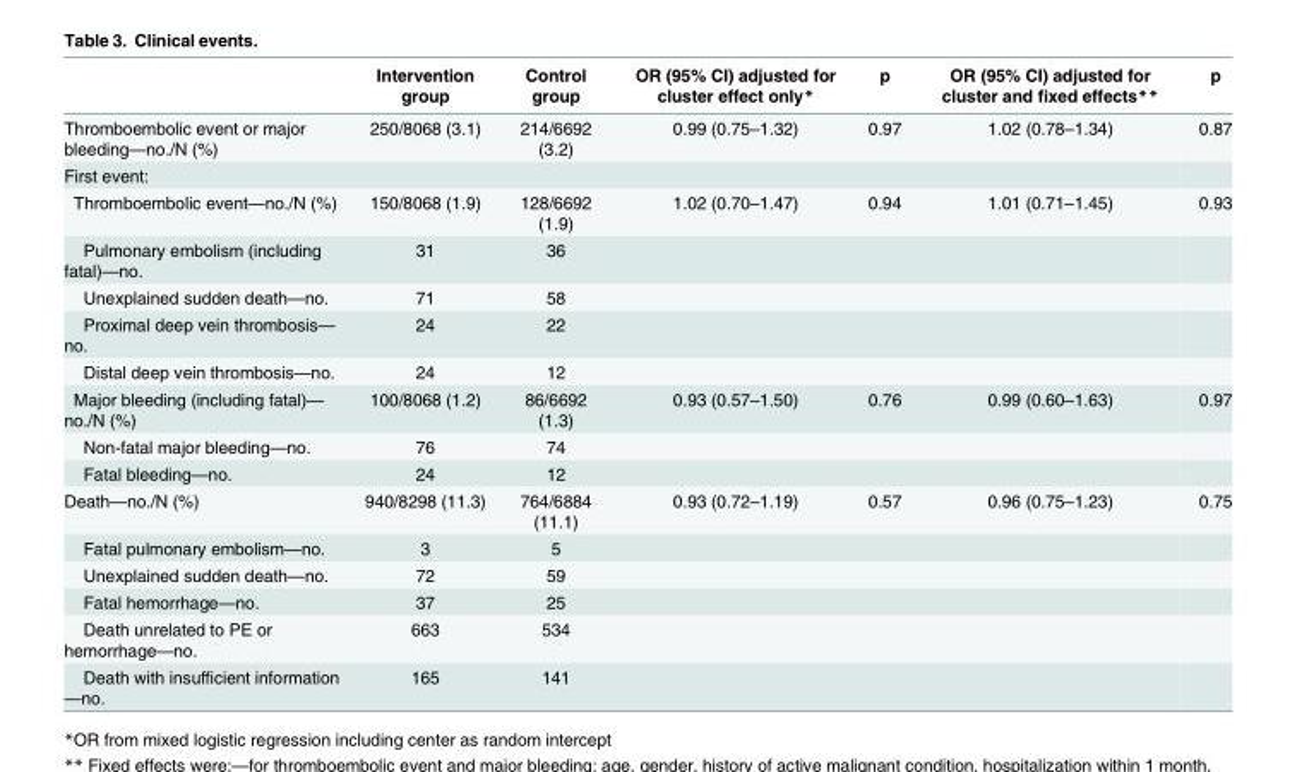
<table><thead><tr><td></td><td>Intervention group</td><td>Control group</td><td>OR (95% CI) adjusted for cluster effect only*</td><td>p</td><td>OR (95% CI) adjusted for cluster and fixed effects**</td><td>p</td></tr></thead><tbody><tr><td>Thromboembolic event or major bleeding—no./N (%)</td><td>250/8068 (3.1)</td><td>214/6692 (3.2)</td><td>0.99 (0.75–1.32)</td><td>0.97</td><td>1.02 (0.78–1.34)</td><td>0.87</td></tr><tr><td colspan="7">First event:</td></tr><tr><td>Thromboembolic event—no./N (%)</td><td>150/8068 (1.9)</td><td>128/6692 (1.9)</td><td>1.02 (0.70–1.47)</td><td>0.94</td><td>1.01 (0.71–1.45)</td><td>0.93</td></tr><tr><td>Pulmonary embolism (including fatal)—no.</td><td>31</td><td>36</td><td></td><td></td><td></td><td></td></tr><tr><td>Unexplained sudden death—no.</td><td>71</td><td>58</td><td></td><td></td><td></td><td></td></tr><tr><td>Proximal deep vein thrombosis— no.</td><td>24</td><td>22</td><td></td><td></td><td></td><td></td></tr><tr><td>Distal deep vein thrombosis—no.</td><td>24</td><td>12</td><td></td><td></td><td></td><td></td></tr><tr><td>Major bleeding (including fatal)— no./N (%)</td><td>100/8068 (1.2)</td><td>86/6692 (1.3)</td><td>0.93 (0.57–1.50)</td><td>0.76</td><td>0.99 (0.60–1.63)</td><td>0.97</td></tr><tr><td>Non-fatal major bleeding—no.</td><td>76</td><td>74</td><td></td><td></td><td></td><td></td></tr><tr><td>Fatal bleeding—no.</td><td>24</td><td>12</td><td></td><td></td><td></td><td></td></tr><tr><td>Death—no./N (%)</td><td>940/8298 (11.3)</td><td>764/6884 (11.1)</td><td>0.93 (0.72–1.19)</td><td>0.57</td><td>0.96 (0.75–1.23)</td><td>0.75</td></tr><tr><td>Fatal pulmonary embolism—no.</td><td>3</td><td>5</td><td></td><td></td><td></td><td></td></tr><tr><td>Unexplained sudden death—no.</td><td>72</td><td>59</td><td></td><td></td><td></td><td></td></tr><tr><td>Fatal hemorrhage—no.</td><td>37</td><td>25</td><td></td><td></td><td></td><td></td></tr><tr><td>Death unrelated to PE or hemorrhage—no.</td><td>663</td><td>534</td><td></td><td></td><td></td><td></td></tr><tr><td>Death with insufficient information —no.</td><td>165</td><td>141</td><td></td><td></td><td></td><td></td></tr></tbody></table>